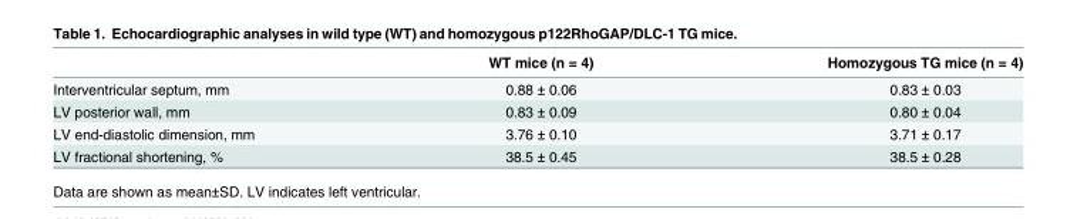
<table><thead><tr><td></td><td>WT mice (n = 4)</td><td>Homozygous TG mice (n = 4)</td></tr></thead><tbody><tr><td>Interventricular septum, mm</td><td>0.88 ± 0.06</td><td>0.83 ± 0.03</td></tr><tr><td>LV posterior wall, mm</td><td>0.83 ± 0.09</td><td>0.80 ± 0.04</td></tr><tr><td>LV end-diastolic dimension, mm</td><td>3.76 ± 0.10</td><td>3.71 ± 0.17</td></tr><tr><td>LV fractional shortening, %</td><td>38.5 ± 0.45</td><td>38.5 ± 0.28</td></tr></tbody></table>